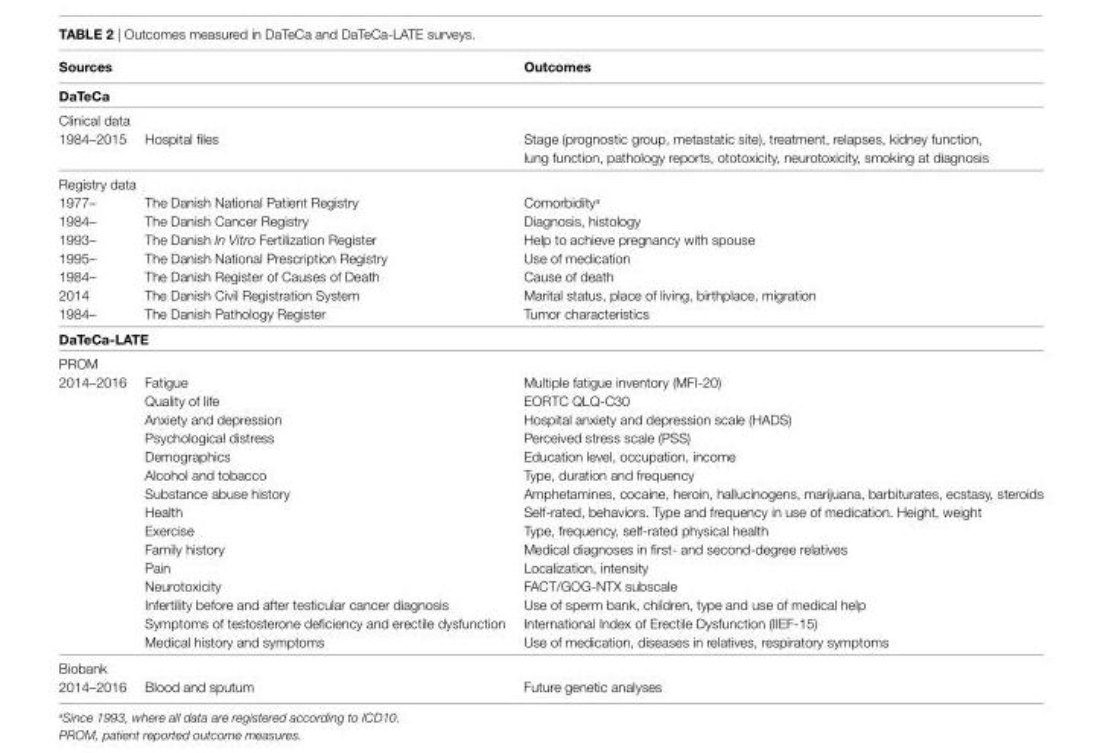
<table><thead><tr><td colspan="2">sources</td><td>Outcomes</td></tr><tr><td rowspan="2" colspan="3">DaTeca Clinical data</td></tr><tr></tr><tr><td>1984–2015</td><td>Hospital files</td><td>Stage (prognostic group, metastatic site), treatment, relapses, kidney function, lung function, pathology reports, ototoxicity, neurotoxicity, smoking at diagnosis</td></tr></thead><tbody><tr><td colspan="3">Registry data</td></tr><tr><td>1977–</td><td>The Danish National Patient Registry</td><td>Comorbidity<sup>a</sup></td></tr><tr><td>1984–</td><td>The Danish Cancer Registry</td><td>Diagnosis, histology</td></tr><tr><td>1993–</td><td>The Danish In Vitro Fertilization Register</td><td>Help to achieve pregnancy with spouse</td></tr><tr><td>1995–</td><td>The Danish National Prescription Registry</td><td>Use of medication</td></tr><tr><td>1984–</td><td>The Danish Register of Causes of Death</td><td>Cause of death</td></tr><tr><td>2014</td><td>The Danish Civil Registration System</td><td>Marital status, place of living, birthplace, migration</td></tr><tr><td>1984–</td><td>The Danish Pathology Register</td><td>Tumor characteristics</td></tr><tr><td colspan="3">DaTeca-laTe</td></tr><tr><td colspan="3">PROM</td></tr><tr><td rowspan="15">2014–2016</td><td>Fatigue</td><td>Multiple fatigue inventory (MFI-20)</td></tr><tr><td>Quality of life</td><td>EORTC QLQ-C30</td></tr><tr><td>Anxiety and depression</td><td>Hospital anxiety and depression scale (HADS)</td></tr><tr><td>Psychological distress</td><td>Perceived stress scale (PSS)</td></tr><tr><td>Demographics</td><td>Education level, occupation, income</td></tr><tr><td>Alcohol and tobacco</td><td>Type, duration and frequency</td></tr><tr><td>Substance abuse history</td><td>Amphetamines, cocaine, heroin, hallucinogens, marijuana, barbiturates, ecstasy, steroids</td></tr><tr><td>Health</td><td>Self-rated, behaviors. Type and frequency in use of medication. Height, weight</td></tr><tr><td>Exercise</td><td>Type, frequency, self-rated physical health</td></tr><tr><td>Family history</td><td>Medical diagnoses in first- and second-degree relatives</td></tr><tr><td>Pain</td><td>Localization, intensity</td></tr><tr><td>Neurotoxicity</td><td>FACT/GOG-NTX subscale</td></tr><tr><td>Infertility before and after testicular cancer diagnosis</td><td>Use of sperm bank, children, type and use of medical help</td></tr><tr><td>Symptoms of testosterone deficiency and erectile dysfunction</td><td>International Index of Erectile Dysfunction (IIEF-15)</td></tr><tr><td>Medical history and symptoms</td><td>Use of medication, diseases in relatives, respiratory symptoms</td></tr><tr><td colspan="3">Biobank</td></tr><tr><td>2014–2016</td><td>Blood and sputum</td><td>Future genetic analyses</td></tr></tbody></table>